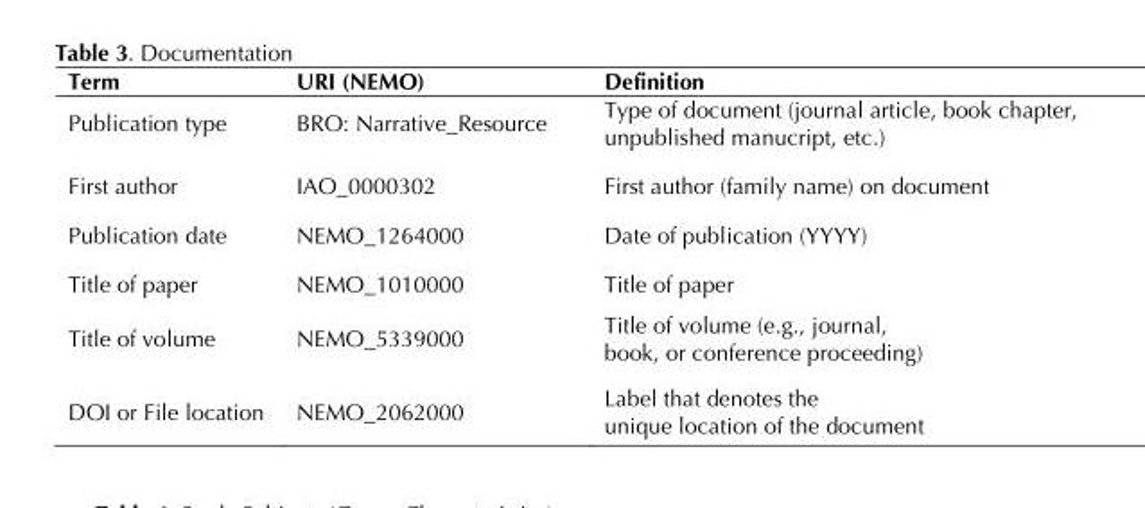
<table><thead><tr><td>Term</td><td>URI (NEMO)</td><td>Definition</td></tr></thead><tbody><tr><td>Publication type</td><td>BRO: Narrative_Resource</td><td>Type of document (journal article, book chapter, unpublished manucript, etc.)</td></tr><tr><td>First author</td><td>IAO_0000302</td><td>First author (family name) on document</td></tr><tr><td>Publication date</td><td>NEMO_1264000</td><td>Date of publication (YYYY)</td></tr><tr><td>Title of paper</td><td>NEMO_1010000</td><td>Title of paper</td></tr><tr><td>Title of volume</td><td>NEMO_5339000</td><td>Title of volume (e.g., journal, book, or conference proceeding)</td></tr><tr><td>DOI or File location</td><td>NEMO_2062000</td><td>Label that denotes the unique location of the document</td></tr></tbody></table>